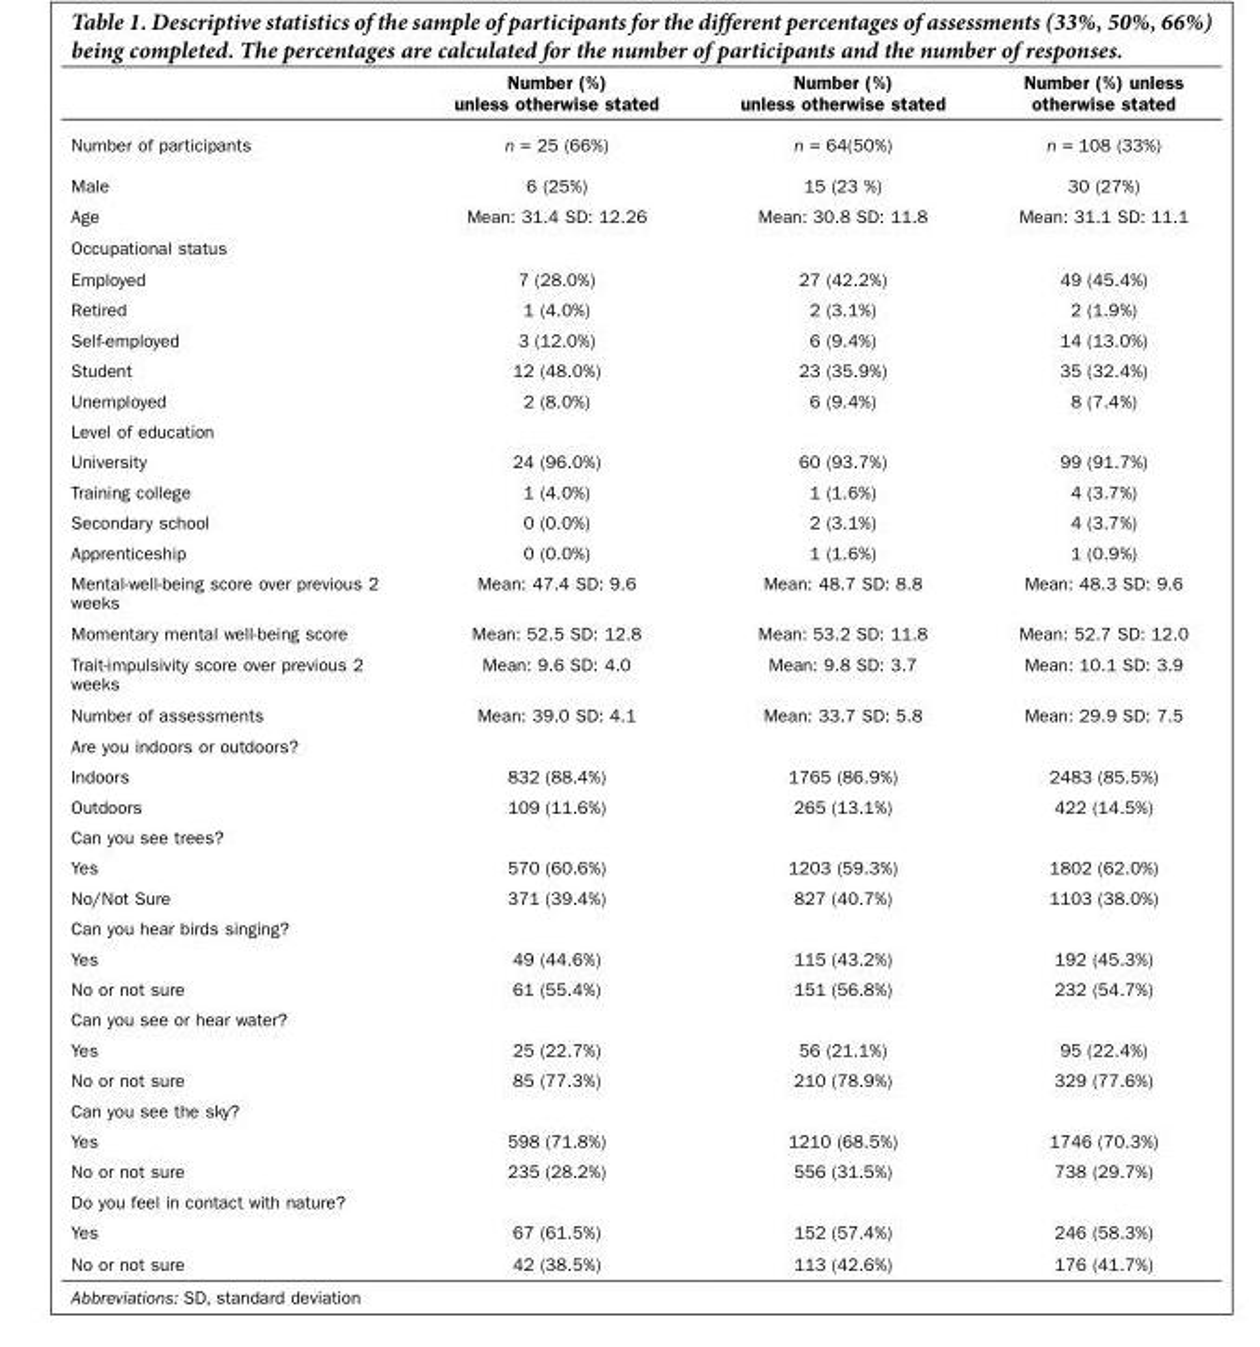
<table><thead><tr><td></td><td>Number (%) unless otherwise stated</td><td>Number (%) unless otherwise stated</td><td>Number (%) unless otherwise stated</td></tr></thead><tbody><tr><td>Number of participants</td><td>n = 25 (66%)</td><td>n = 64(50%)</td><td>n = 108 (33%)</td></tr><tr><td>Male</td><td>6 (25%)</td><td>15 (23 %)</td><td>30 (27%)</td></tr><tr><td>Age</td><td>Mean: 31.4 SD: 12.26</td><td>Mean: 30.8 SD: 11.8</td><td>Mean: 31.1 SD: 11.1</td></tr><tr><td colspan="4">Occupational status</td></tr><tr><td>Employed</td><td>7 (28.0%)</td><td>27 (42.2%)</td><td>49 (45.4%)</td></tr><tr><td>Retired</td><td>1 (4.0%)</td><td>2 (3.1%)</td><td>2 (1.9%)</td></tr><tr><td>Self-employed</td><td>3 (12.0%)</td><td>6 (9.4%)</td><td>14 (13.0%)</td></tr><tr><td>Student</td><td>12 (48.0%)</td><td>23 (35.9%)</td><td>35 (32.4%)</td></tr><tr><td>Unemployed</td><td>2 (8.0%)</td><td>6 (9.4%)</td><td>8 (7.4%)</td></tr><tr><td colspan="4">Level of education</td></tr><tr><td>University</td><td>24 (96.0%)</td><td>60 (93.7%)</td><td>99 (91.7%)</td></tr><tr><td>Training college</td><td>1 (4.0%)</td><td>1 (1.6%)</td><td>4 (3.7%)</td></tr><tr><td>Secondary school</td><td>0 (0.0%)</td><td>2 (3.1%)</td><td>4 (3.7%)</td></tr><tr><td>Apprenticeship</td><td>0 (0.0%)</td><td>1 (1.6%)</td><td>1 (0.9%)</td></tr><tr><td>Mental-well-being score over previous 2 weeks</td><td>Mean: 47.4 SD: 9.6</td><td>Mean: 48.7 SD: 8.8</td><td>Mean: 48.3 SD: 9.6</td></tr><tr><td>Momentary mental well-being score</td><td>Mean: 52.5 SD: 12.8</td><td>Mean: 53.2 SD: 11.8</td><td>Mean: 52.7 SD: 12.0</td></tr><tr><td>Trait-impulsivity score over previous 2 weeks</td><td>Mean: 9.6 SD: 4.0</td><td>Mean: 9.8 SD: 3.7</td><td>Mean: 10.1 SD: 3.9</td></tr><tr><td>Number of assessments</td><td>Mean: 39.0 SD: 4.1</td><td>Mean: 33.7 SD: 5.8</td><td>Mean: 29.9 SD: 7.5</td></tr><tr><td colspan="4">Are you indoors or outdoors?</td></tr><tr><td>Indoors</td><td>832 (88.4%)</td><td>1765 (86.9%)</td><td>2483 (85.5%)</td></tr><tr><td>Outdoors</td><td>109 (11.6%)</td><td>265 (13.1%)</td><td>422 (14.5%)</td></tr><tr><td colspan="4">Can you see trees?</td></tr><tr><td>Yes</td><td>570 (60.6%)</td><td>1203 (59.3%)</td><td>1802 (62.0%)</td></tr><tr><td>No/Not Sure</td><td>371 (39.4%)</td><td>827 (40.7%)</td><td>1103 (38.0%)</td></tr><tr><td colspan="4">Can you hear birds singing?</td></tr><tr><td>Yes</td><td>49 (44.6%)</td><td>115 (43.2%)</td><td>192 (45.3%)</td></tr><tr><td>No or not sure</td><td>61 (55.4%)</td><td>151 (56.8%)</td><td>232 (54.7%)</td></tr><tr><td colspan="4">Can you see or hear water?</td></tr><tr><td>Yes</td><td>25 (22.7%)</td><td>56 (21.1%)</td><td>95 (22.4%)</td></tr><tr><td>No or not sure</td><td>85 (77.3%)</td><td>210 (78.9%)</td><td>329 (77.6%)</td></tr><tr><td colspan="4">Can you see the sky?</td></tr><tr><td>Yes</td><td>598 (71.8%)</td><td>1210 (68.5%)</td><td>1746 (70.3%)</td></tr><tr><td>No or not sure</td><td>235 (28.2%)</td><td>556 (31.5%)</td><td>738 (29.7%)</td></tr><tr><td colspan="4">Do you feel in contact with nature?</td></tr><tr><td>Yes</td><td>67 (61.5%)</td><td>152 (57.4%)</td><td>246 (58.3%)</td></tr><tr><td>No or not sure</td><td>42 (38.5%)</td><td>113 (42.6%)</td><td>176 (41.7%)</td></tr></tbody></table>